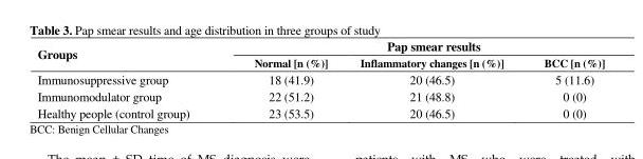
<table><thead><tr><td rowspan="2">Groups</td><td colspan="3">Pap smear results</td></tr><tr><td>Normal [n (%)]</td><td>Inflammatory changes [n (%)]</td><td>BCC [n (%)]</td></tr></thead><tbody><tr><td>Immunosuppressive group</td><td>18 (41.9)</td><td>20 (46.5)</td><td>5 (11.6)</td></tr><tr><td>Immunomodulator group</td><td>22 (51.2)</td><td>21 (48.8)</td><td>0 (0)</td></tr><tr><td>Healthy people (control group)</td><td>23 (53.5)</td><td>20 (46.5)</td><td>0 (0)</td></tr></tbody></table>